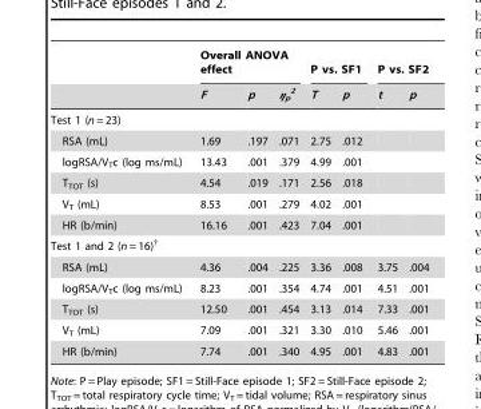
<table><thead><tr><td rowspan="2"></td><td colspan="3">Overall ANOVA effect</td><td colspan="2">P vs. SF1</td><td colspan="2">P vs. SF2</td></tr><tr><td>F</td><td>p</td><td>η<sub>p</sub> <sup>2</sup></td><td>T</td><td>p</td><td>t</td><td>p</td></tr></thead><tbody><tr><td colspan="8">Test 1 (n = 23)</td></tr><tr><td>RSA (mL)</td><td>1.69</td><td>.197</td><td>.071</td><td>2.75</td><td>.012</td><td></td><td></td></tr><tr><td>logRSA/V<sub>T</sub>c (log ms/mL)</td><td>13.43</td><td>.001</td><td>.379</td><td>4.99</td><td>.001</td><td></td><td></td></tr><tr><td>T<sub>TOT</sub> (s)</td><td>4.54</td><td>.019</td><td>.171</td><td>2.56</td><td>.018</td><td></td><td></td></tr><tr><td>V<sub>T</sub> (mL)</td><td>8.53</td><td>.001</td><td>.279</td><td>4.02</td><td>.001</td><td></td><td></td></tr><tr><td>HR (b/min)</td><td>16.16</td><td>.001</td><td>.423</td><td>7.04</td><td>.001</td><td></td><td></td></tr><tr><td colspan="8">Test 1 and 2 (n = 16)†</td></tr><tr><td>RSA (mL)</td><td>4.36</td><td>.004</td><td>.225</td><td>3.36</td><td>.008</td><td>3.75</td><td>.004</td></tr><tr><td>logRSA/V<sub>T</sub>c (log ms/mL)</td><td>8.23</td><td>.001</td><td>.354</td><td>4.74</td><td>.001</td><td>4.51</td><td>.001</td></tr><tr><td>T<sub>TOT</sub> (s)</td><td>12.50</td><td>.001</td><td>.454</td><td>3.13</td><td>.014</td><td>7.33</td><td>.001</td></tr><tr><td>V<sub>T</sub> (mL)</td><td>7.09</td><td>.001</td><td>.321</td><td>3.30</td><td>.010</td><td>5.46</td><td>.001</td></tr><tr><td>HR (b/min)</td><td>7.74</td><td>.001</td><td>.340</td><td>4.95</td><td>.001</td><td>4.83</td><td>.001</td></tr></tbody></table>